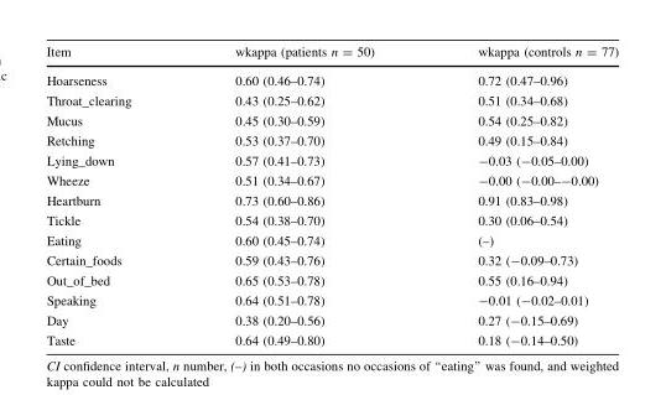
<table><thead><tr><td>Item</td><td>wkappa (patients n = 50)</td><td>wkappa (controls n = 77)</td></tr></thead><tbody><tr><td>Hoarseness</td><td>0.60 (0.46–0.74)</td><td>0.72 (0.47–0.96)</td></tr><tr><td>Throat_clearing</td><td>0.43 (0.25–0.62)</td><td>0.51 (0.34–0.68)</td></tr><tr><td>Mucus</td><td>0.45 (0.30–0.59)</td><td>0.54 (0.25–0.82)</td></tr><tr><td>Retching</td><td>0.53 (0.37–0.70)</td><td>0.49 (0.15–0.84)</td></tr><tr><td>Lying_down</td><td>0.57 (0.41–0.73)</td><td>-0.03 (-0.05–0.00)</td></tr><tr><td>Wheeze</td><td>0.51 (0.34–0.67)</td><td>-0.00 (-0.00–-0.00)</td></tr><tr><td>Heartburn</td><td>0.73 (0.60–0.86)</td><td>0.91 (0.83–0.98)</td></tr><tr><td>Tickle</td><td>0.54 (0.38–0.70)</td><td>0.30 (0.06–0.54)</td></tr><tr><td>Eating</td><td>0.60 (0.45–0.74)</td><td>(–)</td></tr><tr><td>Certain_foods</td><td>0.59 (0.43–0.76)</td><td>0.32 (-0.09–0.73)</td></tr><tr><td>Out_of_bed</td><td>0.65 (0.53–0.78)</td><td>0.55 (0.16–0.94)</td></tr><tr><td>Speaking</td><td>0.64 (0.51–0.78)</td><td>-0.01 (-0.02–0.01)</td></tr><tr><td>Day</td><td>0.38 (0.20–0.56)</td><td>0.27 (-0.15–0.69)</td></tr><tr><td>Taste</td><td>0.64 (0.49–0.80)</td><td>0.18 (-0.14–0.50)</td></tr></tbody></table>